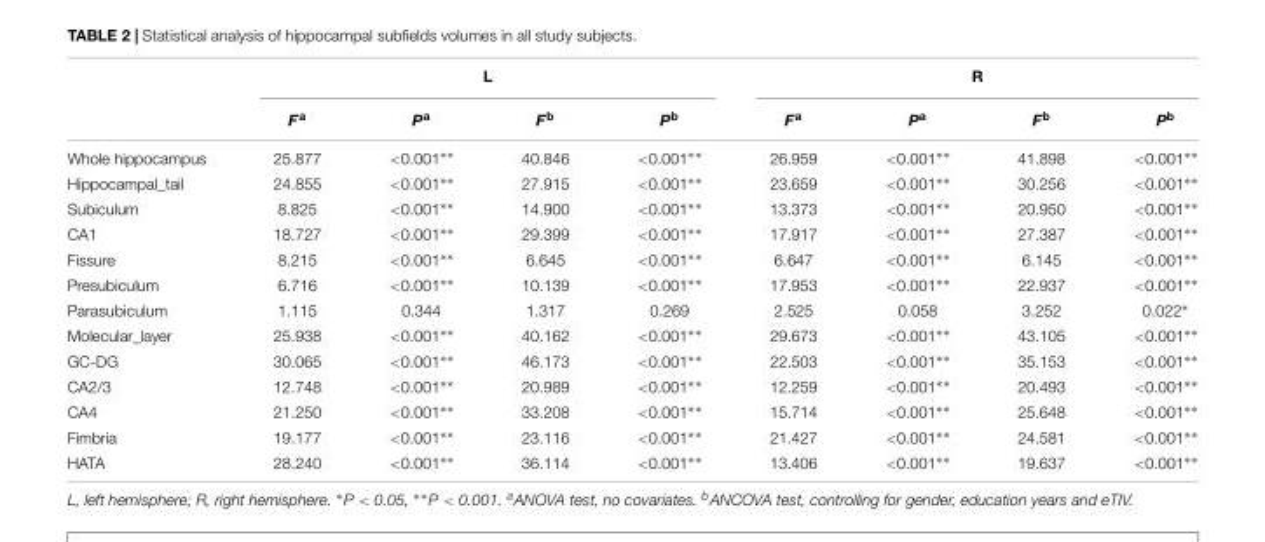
<table><thead><tr><td rowspan="2"></td><td colspan="4">L</td><td colspan="4">R</td></tr><tr><td>F<sup>a</sup></td><td>P<sup>a</sup></td><td>F<sup>b</sup></td><td>P<sup>b</sup></td><td>F<sup>a</sup></td><td>P<sup>a</sup></td><td>F<sup>b</sup></td><td>P<sup>b</sup></td></tr></thead><tbody><tr><td>Whole hippocampus</td><td>25.877</td><td>&lt;0.001∗∗</td><td>40.846</td><td>&lt;0.001∗∗</td><td>26.959</td><td>&lt;0.001∗∗</td><td>41.898</td><td>&lt;0.001∗∗</td></tr><tr><td>Hippocampal_tail</td><td>24.855</td><td>&lt;0.001∗∗</td><td>27.915</td><td>&lt;0.001∗∗</td><td>23.659</td><td>&lt;0.001∗∗</td><td>30.256</td><td>&lt;0.001∗∗</td></tr><tr><td>Subiculum</td><td>8.825</td><td>&lt;0.001∗∗</td><td>14.900</td><td>&lt;0.001∗∗</td><td>13.373</td><td>&lt;0.001∗∗</td><td>20.950</td><td>&lt;0.001∗∗</td></tr><tr><td>CA1</td><td>18.727</td><td>&lt;0.001∗∗</td><td>29.399</td><td>&lt;0.001∗∗</td><td>17.917</td><td>&lt;0.001∗∗</td><td>27.387</td><td>&lt;0.001∗∗</td></tr><tr><td>Fissure</td><td>8.215</td><td>&lt;0.001∗∗</td><td>6.645</td><td>&lt;0.001∗∗</td><td>6.647</td><td>&lt;0.001∗∗</td><td>6.145</td><td>&lt;0.001∗∗</td></tr><tr><td>Presubiculum</td><td>6.716</td><td>&lt;0.001∗∗</td><td>10.139</td><td>&lt;0.001∗∗</td><td>17.953</td><td>&lt;0.001∗∗</td><td>22.937</td><td>&lt;0.001∗∗</td></tr><tr><td>Parasubiculum</td><td>1.115</td><td>0.344</td><td>1.317</td><td>0.269</td><td>2.525</td><td>0.058</td><td>3.252</td><td>0.022∗</td></tr><tr><td>Molecular_layer</td><td>25.938</td><td>&lt;0.001∗∗</td><td>40.162</td><td>&lt;0.001∗∗</td><td>29.673</td><td>&lt;0.001∗∗</td><td>43.105</td><td>&lt;0.001∗∗</td></tr><tr><td>GC-DG</td><td>30.065</td><td>&lt;0.001∗∗</td><td>46.173</td><td>&lt;0.001∗∗</td><td>22.503</td><td>&lt;0.001∗∗</td><td>35.153</td><td>&lt;0.001∗∗</td></tr><tr><td>CA2/3</td><td>12.748</td><td>&lt;0.001∗∗</td><td>20.989</td><td>&lt;0.001∗∗</td><td>12.259</td><td>&lt;0.001∗∗</td><td>20.493</td><td>&lt;0.001∗∗</td></tr><tr><td>CA4</td><td>21.250</td><td>&lt;0.001∗∗</td><td>33.208</td><td>&lt;0.001∗∗</td><td>15.714</td><td>&lt;0.001∗∗</td><td>25.648</td><td>&lt;0.001∗∗</td></tr><tr><td>Fimbria</td><td>19.177</td><td>&lt;0.001∗∗</td><td>23.116</td><td>&lt;0.001∗∗</td><td>21.427</td><td>&lt;0.001∗∗</td><td>24.581</td><td>&lt;0.001∗∗</td></tr><tr><td>HATA</td><td>28.240</td><td>&lt;0.001∗∗</td><td>36.114</td><td>&lt;0.001∗∗</td><td>13.406</td><td>&lt;0.001∗∗</td><td>19.637</td><td>&lt;0.001∗∗</td></tr></tbody></table>